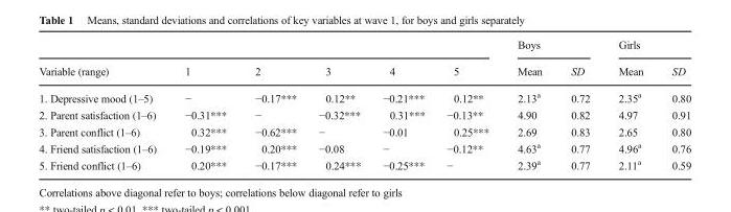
<table><thead><tr><td rowspan="2">Variable (range)</td><td rowspan="2">1</td><td rowspan="2">2</td><td rowspan="2">3</td><td rowspan="2">4</td><td rowspan="2">5</td><td colspan="2">Boys</td><td colspan="2">Girls</td></tr><tr><td>Mean</td><td>SD</td><td>Mean</td><td>SD</td></tr></thead><tbody><tr><td>1. Depressive mood (1–5)</td><td>−</td><td>−0.17***</td><td>0.12**</td><td>−0.21***</td><td>0.12**</td><td>2.13<sup>a</sup></td><td>0.72</td><td>2.35<sup>a</sup></td><td>0.80</td></tr><tr><td>2. Parent satisfaction (1–6)</td><td>−0.31***</td><td>−</td><td>−0.32***</td><td>0.31***</td><td>−0.13**</td><td>4.90</td><td>0.82</td><td>4.97</td><td>0.91</td></tr><tr><td>3. Parent conflict (1–6)</td><td>0.32***</td><td>−0.62***</td><td>−</td><td>−0.01</td><td>0.25***</td><td>2.69</td><td>0.83</td><td>2.65</td><td>0.80</td></tr><tr><td>4. Friend satisfaction (1–6)</td><td>−0.19***</td><td>0.20***</td><td>−0.08</td><td>−</td><td>−0.12**</td><td>4.63<sup>a</sup></td><td>0.77</td><td>4.96<sup>a</sup></td><td>0.76</td></tr><tr><td>5. Friend conflict (1–6)</td><td>0.20***</td><td>−0.17***</td><td>0.24***</td><td>−0.25***</td><td>−</td><td>2.39<sup>a</sup></td><td>0.77</td><td>2.11<sup>a</sup></td><td>0.59</td></tr></tbody></table>